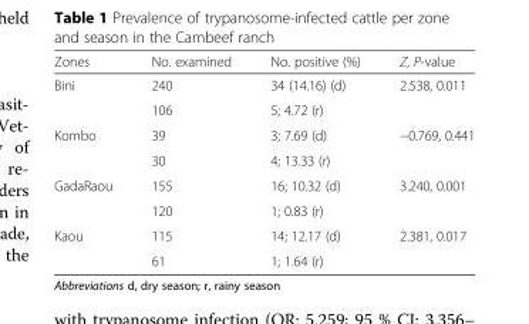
<table><thead><tr><td>Zones</td><td>No. examined</td><td>No. positive (%)</td><td>Z, P-value</td></tr></thead><tbody><tr><td rowspan="2">Bini</td><td>240</td><td>34 (14.16) (d)</td><td rowspan="2">2.538, 0.011</td></tr><tr><td>106</td><td>5; 4.72 (r)</td></tr><tr><td rowspan="2">Kombo</td><td>39</td><td>3; 7.69 (d)</td><td rowspan="2">−0.769, 0.441</td></tr><tr><td>30</td><td>4; 13.33 (r)</td></tr><tr><td rowspan="2">GadaRaou</td><td>155</td><td>16; 10.32 (d)</td><td rowspan="2">3.240, 0.001</td></tr><tr><td>120</td><td>1; 0.83 (r)</td></tr><tr><td rowspan="2">Kaou</td><td>115</td><td>14; 12.17 (d)</td><td rowspan="2">2.381, 0.017</td></tr><tr><td>61</td><td>1; 1.64 (r)</td></tr></tbody></table>